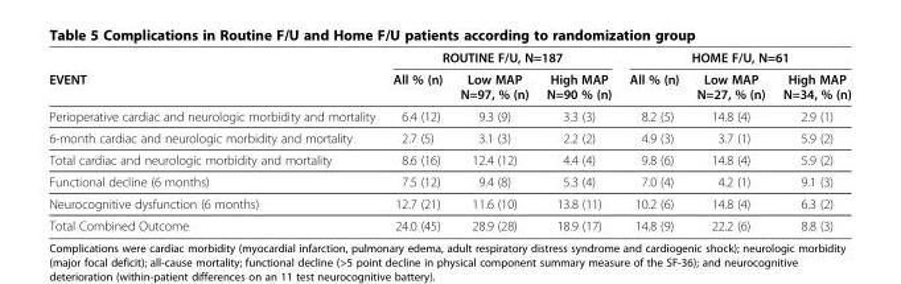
<table><thead><tr><td rowspan="2">EVENT</td><td colspan="3">ROUTINE F/U, N=187</td><td colspan="3">HOME F/U, N=61</td></tr><tr><td>All % (n)</td><td>Low MAP N=97, % (n)</td><td>High MAP N=90 % (n)</td><td>All % (n)</td><td>Low MAP N=27, % (n)</td><td>High MAP N=34, % (n)</td></tr></thead><tbody><tr><td>Perioperative cardiac and neurologic morbidity and mortality</td><td>6.4 (12)</td><td>9.3 (9)</td><td>3.3 (3)</td><td>8.2 (5)</td><td>14.8 (4)</td><td>2.9 (1)</td></tr><tr><td>6-month cardiac and neurologic morbidity and mortality</td><td>2.7 (5)</td><td>3.1 (3)</td><td>2.2 (2)</td><td>4.9 (3)</td><td>3.7 (1)</td><td>5.9 (2)</td></tr><tr><td>Total cardiac and neurologic morbidity and mortality</td><td>8.6 (16)</td><td>12.4 (12)</td><td>4.4 (4)</td><td>9.8 (6)</td><td>14.8 (4)</td><td>5.9 (2)</td></tr><tr><td>Functional decline (6 months)</td><td>7.5 (12)</td><td>9.4 (8)</td><td>5.3 (4)</td><td>7.0 (4)</td><td>4.2 (1)</td><td>9.1 (3)</td></tr><tr><td>Neurocognitive dysfunction (6 months)</td><td>12.7 (21)</td><td>11.6 (10)</td><td>13.8 (11)</td><td>10.2 (6)</td><td>14.8 (4)</td><td>6.3 (2)</td></tr><tr><td>Total Combined Outcome</td><td>24.0 (45)</td><td>28.9 (28)</td><td>18.9 (17)</td><td>14.8 (9)</td><td>22.2 (6)</td><td>8.8 (3)</td></tr></tbody></table>